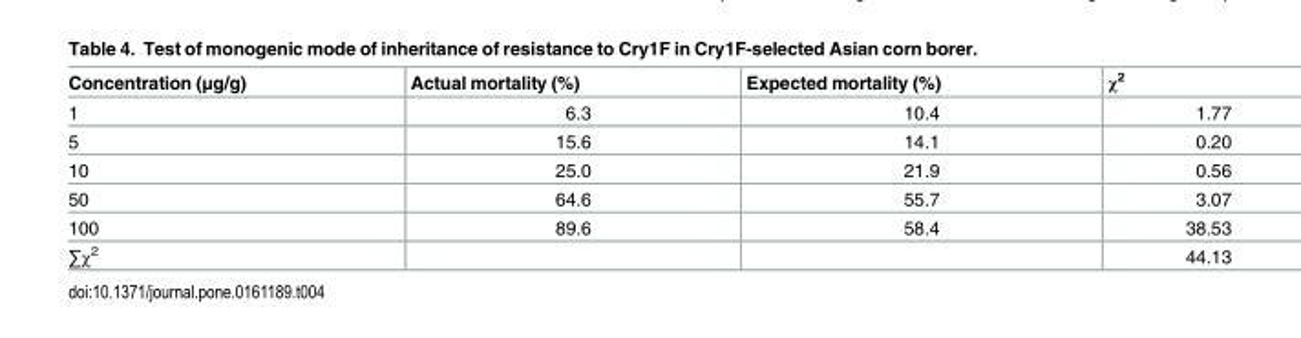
<table><thead><tr><td>Concentration (μg/g)</td><td>Actual mortality (%)</td><td>Expected mortality (%)</td><td>χ<sup>2</sup></td></tr></thead><tbody><tr><td>1</td><td>6.3</td><td>10.4</td><td>1.77</td></tr><tr><td>5</td><td>15.6</td><td>14.1</td><td>0.20</td></tr><tr><td>10</td><td>25.0</td><td>21.9</td><td>0.56</td></tr><tr><td>50</td><td>64.6</td><td>55.7</td><td>3.07</td></tr><tr><td>100</td><td>89.6</td><td>58.4</td><td>38.53</td></tr><tr><td>∑χ<sup>2</sup></td><td></td><td></td><td>44.13</td></tr></tbody></table>